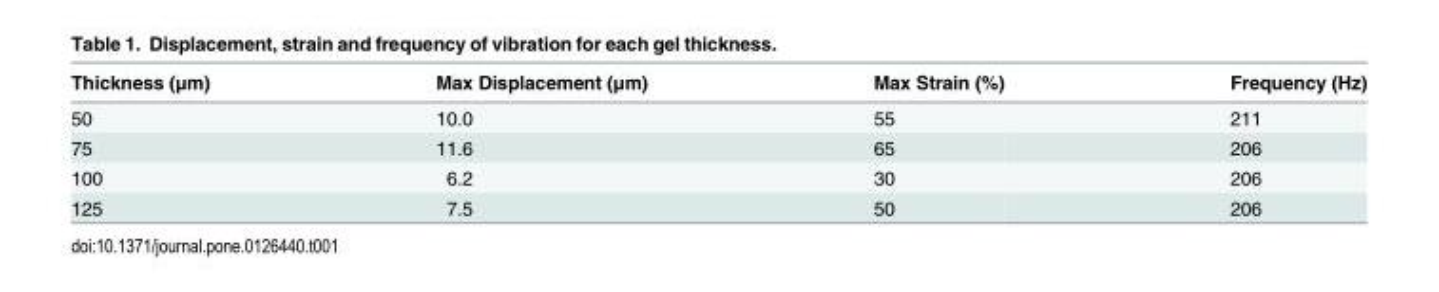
<table><thead><tr><td>Thickness (μm)</td><td>Max Displacement (μm)</td><td>Max Strain (%)</td><td>Frequency (Hz)</td></tr></thead><tbody><tr><td>50</td><td>10.0</td><td>55</td><td>211</td></tr><tr><td>75</td><td>11.6</td><td>65</td><td>206</td></tr><tr><td>100</td><td>6.2</td><td>30</td><td>206</td></tr><tr><td>125</td><td>7.5</td><td>50</td><td>206</td></tr></tbody></table>